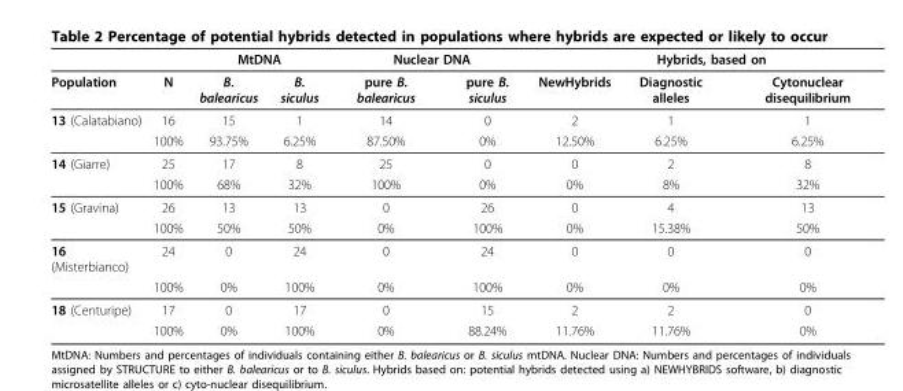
<table><thead><tr><td rowspan="2">Population</td><td rowspan="2">N</td><td colspan="2">MtDNA</td><td colspan="2">Nuclear DNA</td><td colspan="3">Hybrids, based on</td></tr><tr><td>B. balearicus</td><td>B. siculus</td><td>pure B. balearicus</td><td>pure B. siculus</td><td>NewHybrids</td><td>Diagnostic alleles</td><td>Cytonuclear disequilibrium</td></tr></thead><tbody><tr><td rowspan="2">13 (Calatabiano)</td><td>16</td><td>15</td><td>1</td><td>14</td><td>0</td><td>2</td><td>1</td><td>1</td></tr><tr><td>100%</td><td>93.75%</td><td>6.25%</td><td>87.50%</td><td>0%</td><td>12.50%</td><td>6.25%</td><td>6.25%</td></tr><tr><td rowspan="2">14 (Giarre)</td><td>25</td><td>17</td><td>8</td><td>25</td><td>0</td><td>0</td><td>2</td><td>8</td></tr><tr><td>100%</td><td>68%</td><td>32%</td><td>100%</td><td>0%</td><td>0%</td><td>8%</td><td>32%</td></tr><tr><td rowspan="2">15 (Gravina)</td><td>26</td><td>13</td><td>13</td><td>0</td><td>26</td><td>0</td><td>4</td><td>13</td></tr><tr><td>100%</td><td>50%</td><td>50%</td><td>0%</td><td>100%</td><td>0%</td><td>15.38%</td><td>50%</td></tr><tr><td rowspan="2">16 (Misterbianco)</td><td>24</td><td>0</td><td>24</td><td>0</td><td>24</td><td>0</td><td>0</td><td>0</td></tr><tr><td>100%</td><td>0%</td><td>100%</td><td>0%</td><td>100%</td><td>0%</td><td>0%</td><td>0%</td></tr><tr><td rowspan="2">18 (Centuripe)</td><td>17</td><td>0</td><td>17</td><td>0</td><td>15</td><td>2</td><td>2</td><td>0</td></tr><tr><td>100%</td><td>0%</td><td>100%</td><td>0%</td><td>88.24%</td><td>11.76%</td><td>11.76%</td><td>0%</td></tr></tbody></table>